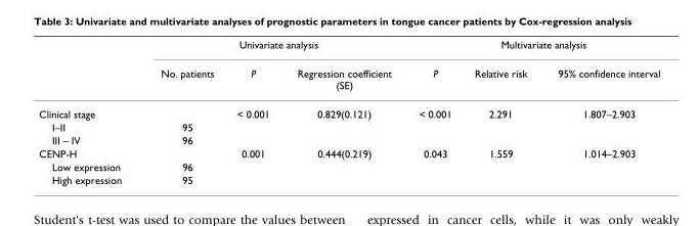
<table><thead><tr><td rowspan="2"></td><td colspan="3">Univariate analysis</td><td colspan="3">Multivariate analysis</td></tr><tr><td>No. patients</td><td>P</td><td>Regression coefficient (SE)</td><td>P</td><td>Relative risk</td><td>95% confidence interval</td></tr></thead><tbody><tr><td>Clinical stage</td><td></td><td>&lt; 0.001</td><td>0.829(0.121)</td><td>&lt; 0.001</td><td>2.291</td><td>1.807–2.903</td></tr><tr><td>I–II</td><td>95</td><td></td><td></td><td></td><td></td><td></td></tr><tr><td>III – IV</td><td>96</td><td></td><td></td><td></td><td></td><td></td></tr><tr><td>CENP-H</td><td></td><td>0.001</td><td>0.444(0.219)</td><td>0.043</td><td>1.559</td><td>1.014–2.903</td></tr><tr><td>Low expression</td><td>96</td><td></td><td></td><td></td><td></td><td></td></tr><tr><td>High expression</td><td>95</td><td></td><td></td><td></td><td></td><td></td></tr></tbody></table>